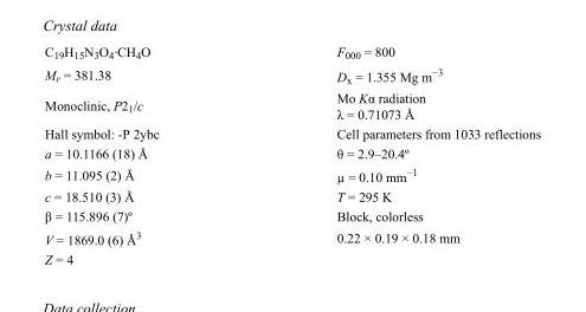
<table><tbody><tr><td>C<sub>19</sub>H<sub>15</sub>N<sub>3</sub>O<sub>4</sub>·CH<sub>4</sub>O</td><td>F000 = 800</td></tr><tr><td>M<sub>r</sub> = 381.38</td><td>D<sub>x</sub> = 1.355 Mg m<sup>−3</sup></td></tr><tr><td>Monoclinic, P2<sub>1</sub>/c</td><td>Mo Kα radiation λ = 0.71073 Å</td></tr><tr><td>Hall symbol: -P 2ybc</td><td>Cell parameters from 1033 reflections</td></tr><tr><td>a = 10.1166 (18) Å</td><td>θ = 2.9–20.4º</td></tr><tr><td>b = 11.095 (2) Å</td><td>µ = 0.10 mm<sup>−1</sup></td></tr><tr><td>c = 18.510 (3) Å</td><td>T = 295 K</td></tr><tr><td>β = 115.896 (7)º</td><td>Block, colorless</td></tr><tr><td>V = 1869.0 (6) Å<sup>3</sup></td><td>0.22 × 0.19 × 0.18 mm</td></tr><tr><td>Z = 4</td><td></td></tr></tbody></table>